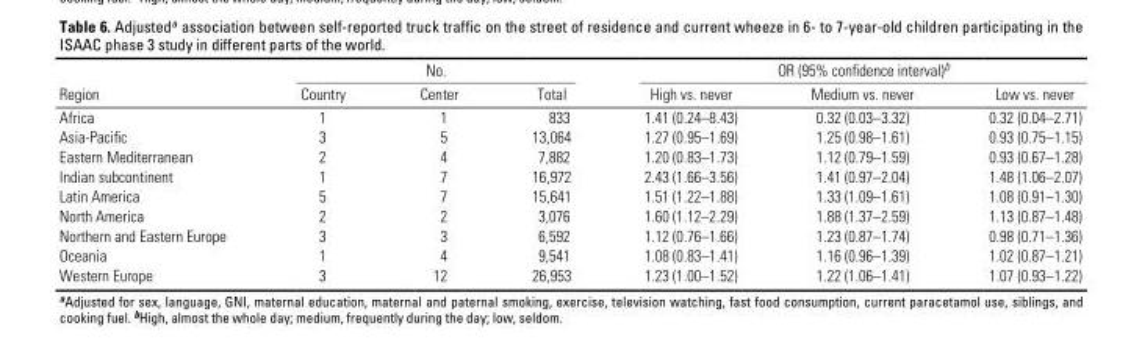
<table><thead><tr><td rowspan="2">Region</td><td colspan="3">No.</td><td colspan="3">OR (95% confidence interval)<sup>b</sup></td></tr><tr><td>Country</td><td>Center</td><td>Total</td><td>High vs. never</td><td>Medium vs. never</td><td>Low vs. never</td></tr></thead><tbody><tr><td>Africa</td><td>1</td><td>1</td><td>833</td><td>1.41 (0.24–8.43)</td><td>0.32 (0.03–3.32)</td><td>0.32 (0.04–2.71)</td></tr><tr><td>Asia-Pacific</td><td>3</td><td>5</td><td>13,064</td><td>1.27 (0.95–1.69)</td><td>1.25 (0.98–1.61)</td><td>0.93 (0.75–1.15)</td></tr><tr><td>Eastern Mediterranean</td><td>2</td><td>4</td><td>7,882</td><td>1.20 (0.83–1.73)</td><td>1.12 (0.79–1.59)</td><td>0.93 (0.67–1.28)</td></tr><tr><td>Indian subcontinent</td><td>1</td><td>7</td><td>16,972</td><td>2.43 (1.66–3.56)</td><td>1.41 (0.97–2.04)</td><td>1.48 (1.06–2.07)</td></tr><tr><td>Latin America</td><td>5</td><td>7</td><td>15,641</td><td>1.51 (1.22–1.88)</td><td>1.33 (1.09–1.61)</td><td>1.08 (0.91–1.30)</td></tr><tr><td>North America</td><td>2</td><td>2</td><td>3,076</td><td>1.60 (1.12–2.29)</td><td>1.88 (1.37–2.59)</td><td>1.13 (0.87–1.48)</td></tr><tr><td>Northern and Eastern Europe</td><td>3</td><td>3</td><td>6,592</td><td>1.12 (0.76–1.66)</td><td>1.23 (0.87–1.74)</td><td>0.98 (0.71–1.36)</td></tr><tr><td>Oceania</td><td>1</td><td>4</td><td>9,541</td><td>1.08 (0.83–1.41)</td><td>1.16 (0.96–1.39)</td><td>1.02 (0.87–1.21)</td></tr><tr><td>Western Europe</td><td>3</td><td>12</td><td>26,953</td><td>1.23 (1.00–1.52)</td><td>1.22 (1.06–1.41)</td><td>1.07 (0.93–1.22)</td></tr></tbody></table>